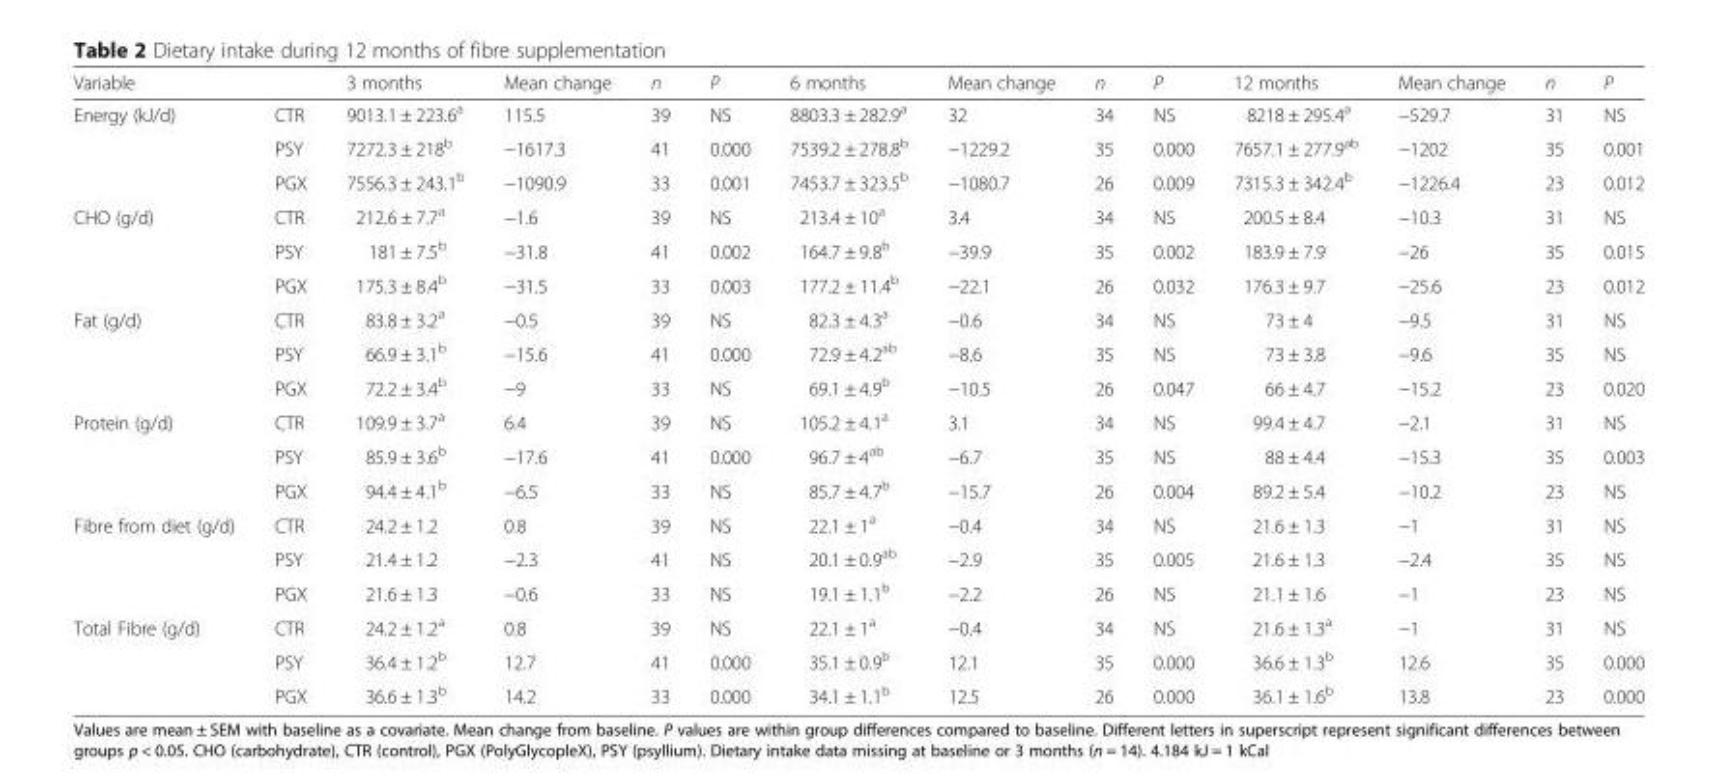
<table><thead><tr><td>Variable</td><td></td><td>3 months</td><td>Mean change</td><td>n</td><td>P</td><td>6 months</td><td>Mean change</td><td>n</td><td>P</td><td>12 months</td><td>Mean change</td><td>n</td><td>P</td></tr></thead><tbody><tr><td rowspan="3">Energy (kJ/d)</td><td>CTR</td><td>9013.1 ± 223.6<sup>a</sup></td><td>115.5</td><td>39</td><td>NS</td><td>8803.3 ± 282.9<sup>a</sup></td><td>32</td><td>34</td><td>NS</td><td>8218 ± 295.4<sup>a</sup></td><td>−529.7</td><td>31</td><td>NS</td></tr><tr><td>PSY</td><td>7272.3 ± 218<sup>b</sup></td><td>−1617.3</td><td>41</td><td>0.000</td><td>7539.2 ± 278.8<sup>b</sup></td><td>−1229.2</td><td>35</td><td>0.000</td><td>7657.1 ± 277.9<sup>ab</sup></td><td>−1202</td><td>35</td><td>0.001</td></tr><tr><td>PGX</td><td>7556.3 ± 243.1<sup>b</sup></td><td>−1090.9</td><td>33</td><td>0.001</td><td>7453.7 ± 323.5<sup>b</sup></td><td>−1080.7</td><td>26</td><td>0.009</td><td>7315.3 ± 342.4<sup>b</sup></td><td>−1226.4</td><td>23</td><td>0.012</td></tr><tr><td rowspan="3">CHO (g/d)</td><td>CTR</td><td>212.6 ± 7.7<sup>a</sup></td><td>−1.6</td><td>39</td><td>NS</td><td>213.4 ± 10<sup>a</sup></td><td>3.4</td><td>34</td><td>NS</td><td>200.5 ± 8.4</td><td>−10.3</td><td>31</td><td>NS</td></tr><tr><td>PSY</td><td>181 ± 7.5<sup>b</sup></td><td>−31.8</td><td>41</td><td>0.002</td><td>164.7 ± 9.8<sup>b</sup></td><td>−39.9</td><td>35</td><td>0.002</td><td>183.9 ± 7.9</td><td>−26</td><td>35</td><td>0.015</td></tr><tr><td>PGX</td><td>175.3 ± 8.4<sup>b</sup></td><td>−31.5</td><td>33</td><td>0.003</td><td>177.2 ± 11.4<sup>b</sup></td><td>−22.1</td><td>26</td><td>0.032</td><td>176.3 ± 9.7</td><td>−25.6</td><td>23</td><td>0.012</td></tr><tr><td rowspan="3">Fat (g/d)</td><td>CTR</td><td>83.8 ± 3.2<sup>a</sup></td><td>−0.5</td><td>39</td><td>NS</td><td>82.3 ± 4.3<sup>a</sup></td><td>−0.6</td><td>34</td><td>NS</td><td>73 ± 4</td><td>−9.5</td><td>31</td><td>NS</td></tr><tr><td>PSY</td><td>66.9 ± 3.1<sup>b</sup></td><td>−15.6</td><td>41</td><td>0.000</td><td>72.9 ± 4.2<sup>ab</sup></td><td>−8.6</td><td>35</td><td>NS</td><td>73 ± 3.8</td><td>−9.6</td><td>35</td><td>NS</td></tr><tr><td>PGX</td><td>72.2 ± 3.4<sup>b</sup></td><td>−9</td><td>33</td><td>NS</td><td>69.1 ± 4.9<sup>b</sup></td><td>−10.5</td><td>26</td><td>0.047</td><td>66 ± 4.7</td><td>−15.2</td><td>23</td><td>0.020</td></tr><tr><td rowspan="3">Protein (g/d)</td><td>CTR</td><td>109.9 ± 3.7<sup>a</sup></td><td>6.4</td><td>39</td><td>NS</td><td>105.2 ± 4.1<sup>a</sup></td><td>3.1</td><td>34</td><td>NS</td><td>99.4 ± 4.7</td><td>−2.1</td><td>31</td><td>NS</td></tr><tr><td>PSY</td><td>85.9 ± 3.6<sup>b</sup></td><td>−17.6</td><td>41</td><td>0.000</td><td>96.7 ± 4<sup>ab</sup></td><td>−6.7</td><td>35</td><td>NS</td><td>88 ± 4.4</td><td>−15.3</td><td>35</td><td>0.003</td></tr><tr><td>PGX</td><td>94.4 ± 4.1<sup>b</sup></td><td>−6.5</td><td>33</td><td>NS</td><td>85.7 ± 4.7<sup>b</sup></td><td>−15.7</td><td>26</td><td>0.004</td><td>89.2 ± 5.4</td><td>−10.2</td><td>23</td><td>NS</td></tr><tr><td rowspan="3">Fibre from diet (g/d)</td><td>CTR</td><td>24.2 ± 1.2</td><td>0.8</td><td>39</td><td>NS</td><td>22.1 ± 1<sup>a</sup></td><td>−0.4</td><td>34</td><td>NS</td><td>21.6 ± 1.3</td><td>−1</td><td>31</td><td>NS</td></tr><tr><td>PSY</td><td>21.4 ± 1.2</td><td>−2.3</td><td>41</td><td>NS</td><td>20.1 ± 0.9<sup>ab</sup></td><td>−2.9</td><td>35</td><td>0.005</td><td>21.6 ± 1.3</td><td>−2.4</td><td>35</td><td>NS</td></tr><tr><td>PGX</td><td>21.6 ± 1.3</td><td>−0.6</td><td>33</td><td>NS</td><td>19.1 ± 1.1<sup>b</sup></td><td>−2.2</td><td>26</td><td>NS</td><td>21.1 ± 1.6</td><td>−1</td><td>23</td><td>NS</td></tr><tr><td rowspan="3">Total Fibre (g/d)</td><td>CTR</td><td>24.2 ± 1.2<sup>a</sup></td><td>0.8</td><td>39</td><td>NS</td><td>22.1 ± 1<sup>a</sup></td><td>−0.4</td><td>34</td><td>NS</td><td>21.6 ± 1.3<sup>a</sup></td><td>−1</td><td>31</td><td>NS</td></tr><tr><td>PSY</td><td>36.4 ± 1.2<sup>b</sup></td><td>12.7</td><td>41</td><td>0.000</td><td>35.1 ± 0.9<sup>b</sup></td><td>12.1</td><td>35</td><td>0.000</td><td>36.6 ± 1.3<sup>b</sup></td><td>12.6</td><td>35</td><td>0.000</td></tr><tr><td>PGX</td><td>36.6 ± 1.3<sup>b</sup></td><td>14.2</td><td>33</td><td>0.000</td><td>34.1 ± 1.1<sup>b</sup></td><td>12.5</td><td>26</td><td>0.000</td><td>36.1 ± 1.6<sup>b</sup></td><td>13.8</td><td>23</td><td>0.000</td></tr></tbody></table>